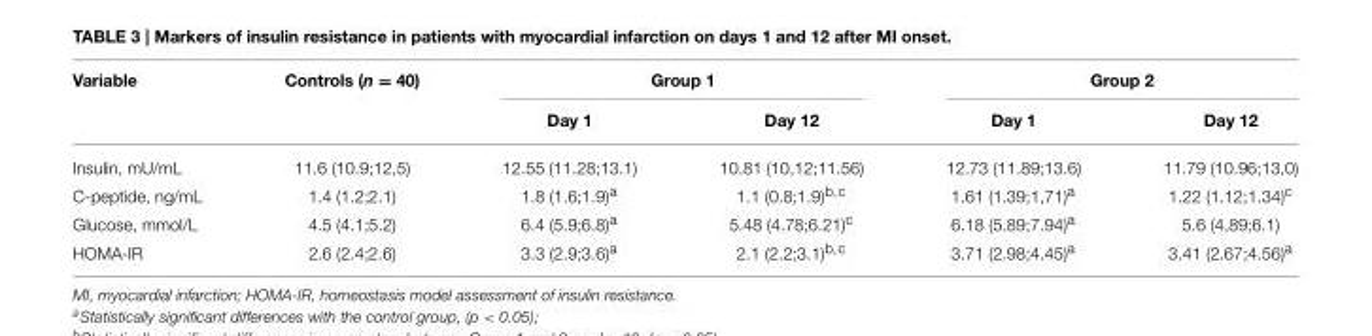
<table><thead><tr><td rowspan="2">Variable</td><td rowspan="2">Controls (n = 40)</td><td colspan="2">Group 1</td><td colspan="2">Group 2</td></tr><tr><td>Day 1</td><td>Day 12</td><td>Day 1</td><td>Day 12</td></tr></thead><tbody><tr><td>Insulin, mU/mL</td><td>11.6 (10.9;12,5)</td><td>12.55 (11.28;13.1)</td><td>10.81 (10,12;11.56)</td><td>12.73 (11.89;13.6)</td><td>11.79 (10.96;13,0)</td></tr><tr><td>C-peptide, ng/mL</td><td>1.4 (1.2;2.1)</td><td>1.8 (1.6;1.9)<sup>a</sup></td><td>1.1 (0.8;1.9)<sup>b,c</sup></td><td>1.61 (1.39;1,71)<sup>a</sup></td><td>1.22 (1.12;1.34)<sup>c</sup></td></tr><tr><td>Glucose, mmol/L</td><td>4.5 (4.1;5.2)</td><td>6.4 (5.9;6.8)<sup>a</sup></td><td>5.48 (4.78;6.21)<sup>c</sup></td><td>6.18 (5.89;7.94)<sup>a</sup></td><td>5.6 (4,89;6.1)</td></tr><tr><td>HOMA-IR</td><td>2.6 (2.4;2.6)</td><td>3.3 (2.9;3.6)<sup>a</sup></td><td>2.1 (2.2;3.1)<sup>b,c</sup></td><td>3.71 (2.98;4.45)<sup>a</sup></td><td>3.41 (2.67;4.56)<sup>a</sup></td></tr></tbody></table>